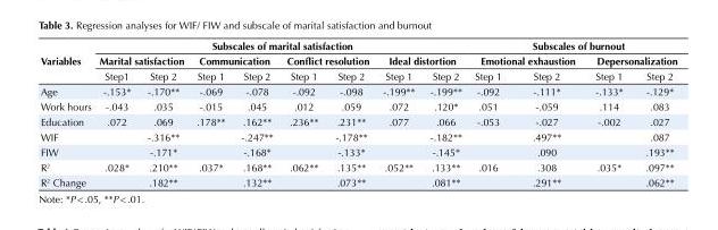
<table><tbody><tr><td rowspan="3">Variables</td><td colspan="8">Subscales of marital satisfaction</td><td colspan="4">Subscales of burnout</td></tr><tr><td colspan="2">Marital satisfaction</td><td colspan="2">Communication</td><td colspan="2">Conflict resolution</td><td colspan="2">Ideal distortion</td><td colspan="2">Emotional exhaustion</td><td colspan="2">Depersonalization</td></tr><tr><td>Step1</td><td>Step 2</td><td>Step 1</td><td>Step 2</td><td>Step 1</td><td>Step 2</td><td>Step 1</td><td>Step 2</td><td>Step 1</td><td>Step 2</td><td>Step 1</td><td>Step 2</td></tr><tr><td>Age</td><td>-.153*</td><td>-.170**</td><td>-.069</td><td>-.078</td><td>-.092</td><td>-.098</td><td>-.199**</td><td>-.199**</td><td>-.092</td><td>-.111*</td><td>-.133*</td><td>-.129*</td></tr><tr><td>Work hours</td><td>-.043</td><td>.035</td><td>-.015</td><td>.045</td><td>.012</td><td>.059</td><td>.072</td><td>.120*</td><td>.051</td><td>-.059</td><td>.114</td><td>.083</td></tr><tr><td>Education</td><td>.072</td><td>.069</td><td>.178**</td><td>.162**</td><td>.236**</td><td>.231**</td><td>.077</td><td>.066</td><td>-.053</td><td>-.027</td><td>-.002</td><td>.027</td></tr><tr><td>WIF</td><td></td><td>-.316**</td><td></td><td>-.247**</td><td></td><td>-.178**</td><td></td><td>-.182**</td><td></td><td>.497**</td><td></td><td>.087</td></tr><tr><td>FIW</td><td></td><td>-.171*</td><td></td><td>-.168*</td><td></td><td>-.133*</td><td></td><td>-.145*</td><td></td><td>.090</td><td></td><td>.193**</td></tr><tr><td>R<sup>2</sup></td><td>.028*</td><td>.210**</td><td>.037*</td><td>.168**</td><td>.062**</td><td>.135**</td><td>.052**</td><td>.133**</td><td>.016</td><td>.308</td><td>.035*</td><td>.097**</td></tr><tr><td>R<sup>2</sup> Change</td><td></td><td>.182**</td><td></td><td>.132**</td><td></td><td>.073**</td><td></td><td>.081**</td><td></td><td>.291**</td><td></td><td>.062**</td></tr></tbody></table>